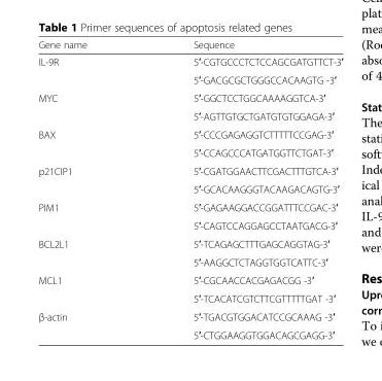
<table><thead><tr><td>Gene name</td><td>Sequence</td></tr></thead><tbody><tr><td rowspan="2">IL-9R</td><td>5′-CGTGCCCTCTCCAGCGATGTTCT-3′</td></tr><tr><td>5′-GACGCGCTGGGCCACAAGTG -3′</td></tr><tr><td rowspan="2">MYC</td><td>5′-GGCTCCTGGCAAAAGGTCA-3′</td></tr><tr><td>5′-AGTTGTGCTGATGTGTGGAGA-3′</td></tr><tr><td rowspan="2">BAX</td><td>5′-CCCGAGAGGTCTTTTTCCGAG-3′</td></tr><tr><td>5′-CCAGCCCATGATGGTTCTGAT-3′</td></tr><tr><td rowspan="2">p21CIP1</td><td>5′-CGATGGAACTTCGACTTTGTCA-3′</td></tr><tr><td>5′-GCACAAGGGTACAAGACAGTG-3′</td></tr><tr><td rowspan="2">PIM1</td><td>5′-GAGAAGGACCGGATTTCCGAC-3′</td></tr><tr><td>5′-CAGTCCAGGAGCCTAATGACG-3′</td></tr><tr><td rowspan="2">BCL2L1</td><td>5′-TCAGAGCTTTGAGCAGGTAG-3′</td></tr><tr><td>5′-AAGGCTCTAGGTGGTCATTC-3′</td></tr><tr><td rowspan="2">MCL1</td><td>5′-CGCAACCACGAGACGG -3′</td></tr><tr><td>5′-TCACATCGTCTTCGTTTTTGAT -3′</td></tr><tr><td rowspan="2">β-actin</td><td>5′-TGACGTGGACATCCGCAAAG -3′</td></tr><tr><td>5′-CTGGAAGGTGGACAGCGAGG-3′</td></tr></tbody></table>